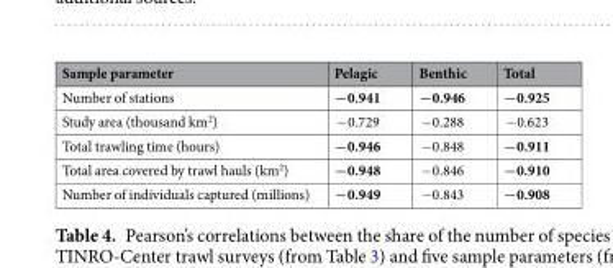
<table><thead><tr><td>Sample parameter</td><td>Pelagic</td><td>Benthic</td><td>Total</td></tr></thead><tbody><tr><td>Number of stations</td><td>−0.941</td><td>−0.946</td><td>−0.925</td></tr><tr><td>Study area (thousand km<sup>2</sup>)</td><td>−0.729</td><td>−0.288</td><td>−0.623</td></tr><tr><td>Total trawling time (hours)</td><td>−0.946</td><td>−0.848</td><td>−0.911</td></tr><tr><td>Total area covered by trawl hauls (km<sup>2</sup>)</td><td>−0.948</td><td>−0.846</td><td>−0.910</td></tr><tr><td>Number of individuals captured (millions)</td><td>−0.949</td><td>−0.843</td><td>−0.908</td></tr></tbody></table>